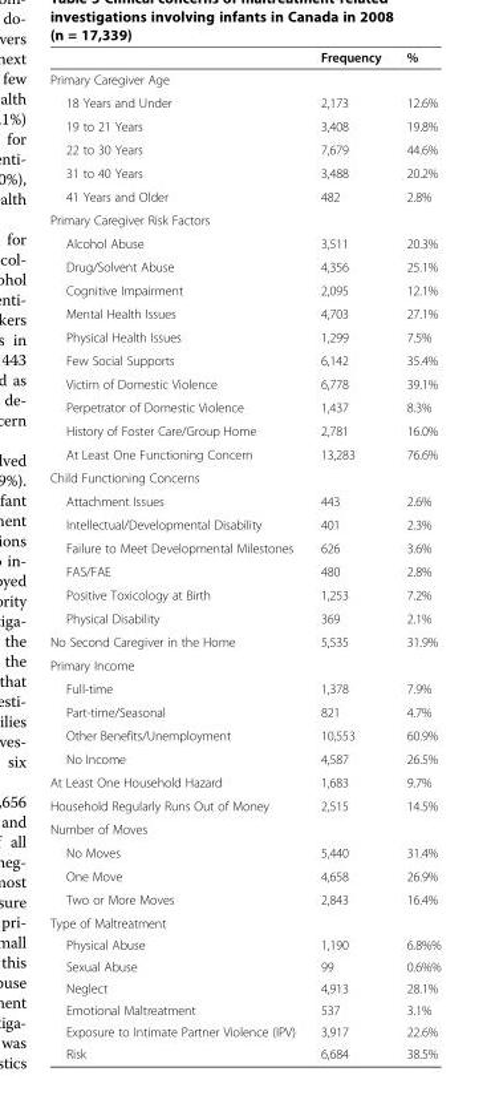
<table><thead><tr><td></td><td>Frequency</td><td>%</td></tr></thead><tbody><tr><td colspan="3">Primary Caregiver Age</td></tr><tr><td>18 Years and Under</td><td>2,173</td><td>12.6%</td></tr><tr><td>19 to 21 Years</td><td>3,408</td><td>19.8%</td></tr><tr><td>22 to 30 Years</td><td>7,679</td><td>44.6%</td></tr><tr><td>31 to 40 Years</td><td>3,488</td><td>20.2%</td></tr><tr><td>41 Years and Older</td><td>482</td><td>2.8%</td></tr><tr><td colspan="3">Primary Caregiver Risk Factors</td></tr><tr><td>Alcohol Abuse</td><td>3,511</td><td>20.3%</td></tr><tr><td>Drug/Solvent Abuse</td><td>4,356</td><td>25.1%</td></tr><tr><td>Cognitive Impairment</td><td>2,095</td><td>12.1%</td></tr><tr><td>Mental Health Issues</td><td>4,703</td><td>27.1%</td></tr><tr><td>Physical Health Issues</td><td>1,299</td><td>7.5%</td></tr><tr><td>Few Social Supports</td><td>6,142</td><td>35.4%</td></tr><tr><td>Victim of Domestic Violence</td><td>6,778</td><td>39.1%</td></tr><tr><td>Perpetrator of Domestic Violence</td><td>1,437</td><td>8.3%</td></tr><tr><td>History of Foster Care/Group Home</td><td>2,781</td><td>16.0%</td></tr><tr><td>At Least One Functioning Concern</td><td>13,283</td><td>76.6%</td></tr><tr><td colspan="3">Child Functioning Concerns</td></tr><tr><td>Attachment Issues</td><td>443</td><td>2.6%</td></tr><tr><td>Intellectual/Developmental Disability</td><td>401</td><td>2.3%</td></tr><tr><td>Failure to Meet Developmental Milestones</td><td>626</td><td>3.6%</td></tr><tr><td>FAS/FAE</td><td>480</td><td>2.8%</td></tr><tr><td>Positive Toxicology at Birth</td><td>1,253</td><td>7.2%</td></tr><tr><td>Physical Disability</td><td>369</td><td>2.1%</td></tr><tr><td>No Second Caregiver in the Home</td><td>5,535</td><td>31.9%</td></tr><tr><td colspan="3">Primary Income</td></tr><tr><td>Full-time</td><td>1,378</td><td>7.9%</td></tr><tr><td>Part-time/Seasonal</td><td>821</td><td>4.7%</td></tr><tr><td>Other Benefits/Unemployment</td><td>10,553</td><td>60.9%</td></tr><tr><td>No Income</td><td>4,587</td><td>26.5%</td></tr><tr><td>At Least One Household Hazard</td><td>1,683</td><td>9.7%</td></tr><tr><td>Household Regularly Runs Out of Money</td><td>2,515</td><td>14.5%</td></tr><tr><td colspan="3">Number of Moves</td></tr><tr><td>No Moves</td><td>5,440</td><td>31.4%</td></tr><tr><td>One Move</td><td>4,658</td><td>26.9%</td></tr><tr><td>Two or More Moves</td><td>2,843</td><td>16.4%</td></tr><tr><td colspan="3">Type of Maltreatment</td></tr><tr><td>Physical Abuse</td><td>1,190</td><td>6.8%%</td></tr><tr><td>Sexual Abuse</td><td>99</td><td>0.6%%</td></tr><tr><td>Neglect</td><td>4,913</td><td>28.1%</td></tr><tr><td>Emotional Maltreatment</td><td>537</td><td>3.1%</td></tr><tr><td>Exposure to Intimate Partner Violence (IPV)</td><td>3,917</td><td>22.6%</td></tr><tr><td>Risk</td><td>6,684</td><td>38.5%</td></tr></tbody></table>